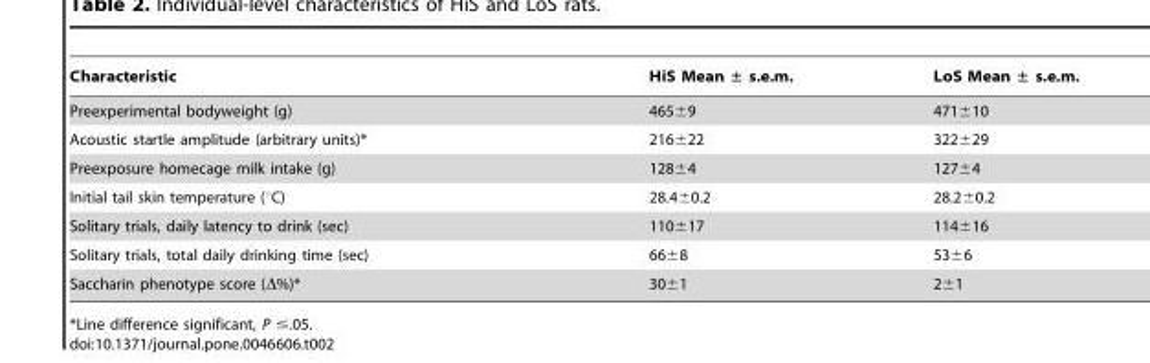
<table><thead><tr><td>Characteristic</td><td>HiS Mean ± s.e.m.</td><td>LoS Mean ± s.e.m.</td></tr></thead><tbody><tr><td>Preexperimental bodyweight (g)</td><td>465±9</td><td>471±10</td></tr><tr><td>Acoustic startle amplitude (arbitrary units)*</td><td>216±22</td><td>322±29</td></tr><tr><td>Preexposure homecage milk intake (g)</td><td>128±4</td><td>127±4</td></tr><tr><td>Initial tail skin temperature (°C)</td><td>28.4±0.2</td><td>28.2±0.2</td></tr><tr><td>Solitary trials, daily latency to drink (sec)</td><td>110±17</td><td>114±16</td></tr><tr><td>Solitary trials, total daily drinking time (sec)</td><td>66±8</td><td>53±6</td></tr><tr><td>Saccharin phenotype score (Δ%)*</td><td>30±1</td><td>2±1</td></tr></tbody></table>